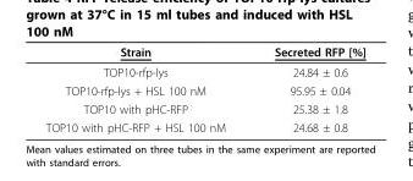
<table><thead><tr><td>Strain</td><td>Secreted RFP [%]</td></tr></thead><tbody><tr><td>TOP10-rfp-lys</td><td>24.84 ± 0.6</td></tr><tr><td>TOP10-rfp-lys + HSL 100 nM</td><td>95.95 ± 0.04</td></tr><tr><td>TOP10 with pHC-RFP</td><td>25.38 ± 1.8</td></tr><tr><td>TOP10 with pHC-RFP + HSL 100 nM</td><td>24.68 ± 0.8</td></tr></tbody></table>